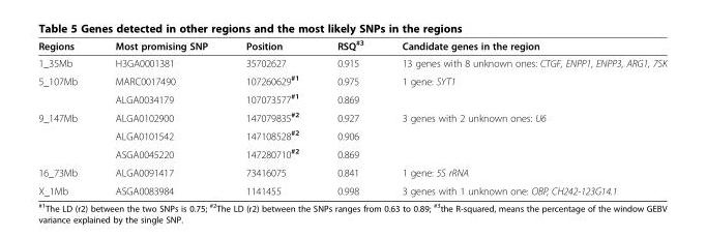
<table><thead><tr><td>Regions</td><td>Most promising SNP</td><td>Position</td><td>RSQ<sup>#3</sup></td><td>Candidate genes in the region</td></tr></thead><tbody><tr><td>1_35Mb</td><td>H3GA0001381</td><td>35702627</td><td>0.915</td><td>13 genes with 8 unknown ones: CTGF, ENPP1, ENPP3, ARG1, 7SK</td></tr><tr><td rowspan="2">5_107Mb</td><td>MARC0017490</td><td>107260629<sup>#1</sup></td><td>0.975</td><td rowspan="2">1 gene: SYT1</td></tr><tr><td>ALGA0034179</td><td>107073577<sup>#1</sup></td><td>0.869</td></tr><tr><td rowspan="3">9_147Mb</td><td>ALGA0102900</td><td>147079835<sup>#2</sup></td><td>0.927</td><td rowspan="3">3 genes with 2 unknown ones: U6</td></tr><tr><td>ALGA0101542</td><td>147108528<sup>#2</sup></td><td>0.906</td></tr><tr><td>ASGA0045220</td><td>147280710<sup>#2</sup></td><td>0.869</td></tr><tr><td>16_73Mb</td><td>ALGA0091417</td><td>73416075</td><td>0.841</td><td>1 gene: 5S rRNA</td></tr><tr><td>X_1Mb</td><td>ASGA0083984</td><td>1141455</td><td>0.998</td><td>3 genes with 1 unknown one: OBP, CH242-123G14.1</td></tr></tbody></table>